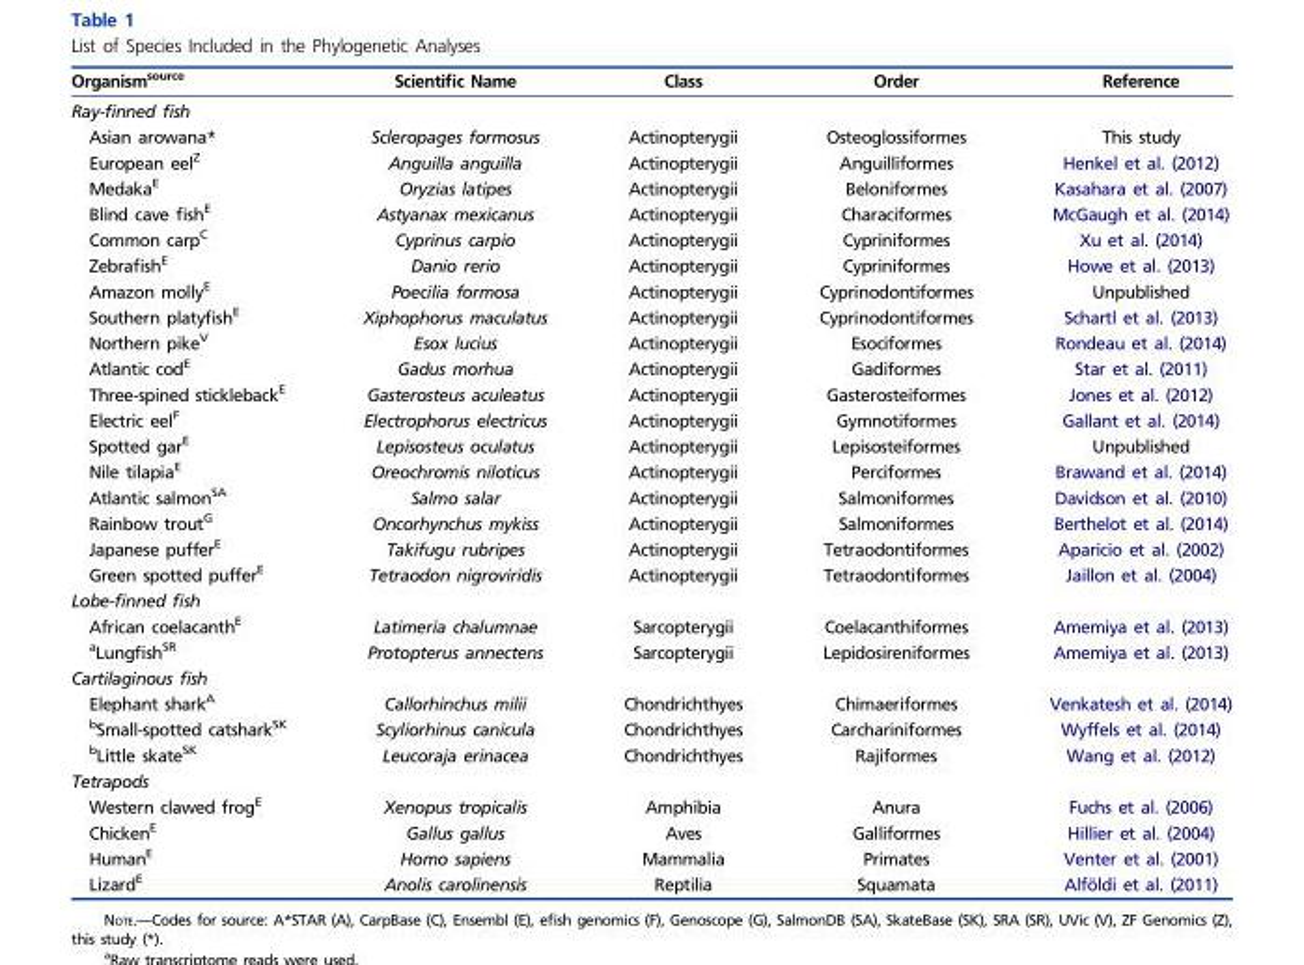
<table><thead><tr><td>Organism<sup>source</sup></td><td>Scientific Name</td><td>Class</td><td>Order</td><td>Reference</td></tr></thead><tbody><tr><td colspan="5">Ray-finned fish</td></tr><tr><td>Asian arowana*</td><td>Scleropages formosus</td><td>Actinopterygii</td><td>Osteoglossiformes</td><td>This study</td></tr><tr><td>European eel<sup>Z</sup></td><td>Anguilla anguilla</td><td>Actinopterygii</td><td>Anguilliformes</td><td>Henkel et al. (2012)</td></tr><tr><td>Medaka<sup>E</sup></td><td>Oryzias latipes</td><td>Actinopterygii</td><td>Beloniformes</td><td>Kasahara et al. (2007)</td></tr><tr><td>Blind cave fish<sup>E</sup></td><td>Astyanax mexicanus</td><td>Actinopterygii</td><td>Characiformes</td><td>McGaugh et al. (2014)</td></tr><tr><td>Common carp<sup>C</sup></td><td>Cyprinus carpio</td><td>Actinopterygii</td><td>Cypriniformes</td><td>Xu et al. (2014)</td></tr><tr><td>Zebrafish<sup>E</sup></td><td>Danio rerio</td><td>Actinopterygii</td><td>Cypriniformes</td><td>Howe et al. (2013)</td></tr><tr><td>Amazon molly<sup>E</sup></td><td>Poecilia formosa</td><td>Actinopterygii</td><td>Cyprinodontiformes</td><td>Unpublished</td></tr><tr><td>Southern platyfish<sup>E</sup></td><td>Xiphophorus maculatus</td><td>Actinopterygii</td><td>Cyprinodontiformes</td><td>Schartl et al. (2013)</td></tr><tr><td>Northern pike<sup>V</sup></td><td>Esox lucius</td><td>Actinopterygii</td><td>Esociformes</td><td>Rondeau et al. (2014)</td></tr><tr><td>Atlantic cod<sup>E</sup></td><td>Gadus morhua</td><td>Actinopterygii</td><td>Gadiformes</td><td>Star et al. (2011)</td></tr><tr><td>Three-spined stickleback<sup>E</sup></td><td>Gasterosteus aculeatus</td><td>Actinopterygii</td><td>Gasterosteiformes</td><td>Jones et al. (2012)</td></tr><tr><td>Electric eel<sup>F</sup></td><td>Electrophorus electricus</td><td>Actinopterygii</td><td>Gymnotiformes</td><td>Gallant et al. (2014)</td></tr><tr><td>Spotted gar<sup>E</sup></td><td>Lepisosteus oculatus</td><td>Actinopterygii</td><td>Lepisosteiformes</td><td>Unpublished</td></tr><tr><td>Nile tilapia<sup>E</sup></td><td>Oreochromis niloticus</td><td>Actinopterygii</td><td>Perciformes</td><td>Brawand et al. (2014)</td></tr><tr><td>Atlantic salmon<sup>SA</sup></td><td>Salmo salar</td><td>Actinopterygii</td><td>Salmoniformes</td><td>Davidson et al. (2010)</td></tr><tr><td>Rainbow trout<sup>G</sup></td><td>Oncorhynchus mykiss</td><td>Actinopterygii</td><td>Salmoniformes</td><td>Berthelot et al. (2014)</td></tr><tr><td>Japanese puffer<sup>E</sup></td><td>Takifugu rubripes</td><td>Actinopterygii</td><td>Tetraodontiformes</td><td>Aparicio et al. (2002)</td></tr><tr><td>Green spotted puffer<sup>E</sup></td><td>Tetraodon nigroviridis</td><td>Actinopterygii</td><td>Tetraodontiformes</td><td>Jaillon et al. (2004)</td></tr><tr><td colspan="5">Lobe-finned fish</td></tr><tr><td>African coelacanth<sup>E</sup></td><td>Latimeria chalumnae</td><td>Sarcopterygii</td><td>Coelacanthiformes</td><td>Amemiya et al. (2013)</td></tr><tr><td><sup>a</sup>Lungfish<sup>SR</sup></td><td>Protopterus annectens</td><td>Sarcopterygii</td><td>Lepidosireniformes</td><td>Amemiya et al. (2013)</td></tr><tr><td colspan="5">Cartilaginous fish</td></tr><tr><td>Elephant shark<sup>A</sup></td><td>Callorhinchus milii</td><td>Chondrichthyes</td><td>Chimaeriformes</td><td>Venkatesh et al. (2014)</td></tr><tr><td><sup>b</sup>Small-spotted catshark<sup>SK</sup></td><td>Scyliorhinus canicula</td><td>Chondrichthyes</td><td>Carchariniformes</td><td>Wyffels et al. (2014)</td></tr><tr><td><sup>b</sup>Little skate<sup>SK</sup></td><td>Leucoraja erinacea</td><td>Chondrichthyes</td><td>Rajiformes</td><td>Wang et al. (2012)</td></tr><tr><td colspan="5">Tetrapods</td></tr><tr><td>Western clawed frog<sup>E</sup></td><td>Xenopus tropicalis</td><td>Amphibia</td><td>Anura</td><td>Fuchs et al. (2006)</td></tr><tr><td>Chicken<sup>E</sup></td><td>Gallus gallus</td><td>Aves</td><td>Galliformes</td><td>Hillier et al. (2004)</td></tr><tr><td>Human<sup>E</sup></td><td>Homo sapiens</td><td>Mammalia</td><td>Primates</td><td>Venter et al. (2001)</td></tr><tr><td>Lizard<sup>E</sup></td><td>Anolis carolinensis</td><td>Reptilia</td><td>Squamata</td><td>Alfo¨ldi et al. (2011)</td></tr></tbody></table>